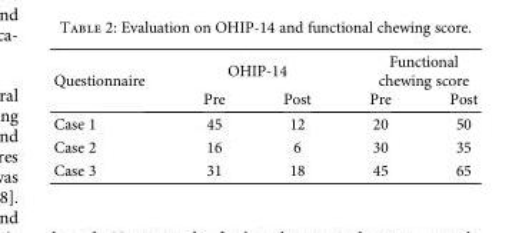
<table><thead><tr><td rowspan="2">Questionnaire</td><td colspan="2">OHIP-14</td><td colspan="2">Functional chewing score</td></tr><tr><td>Pre</td><td>Post</td><td>Pre</td><td>Post</td></tr></thead><tbody><tr><td>Case 1</td><td>45</td><td>12</td><td>20</td><td>50</td></tr><tr><td>Case 2</td><td>16</td><td>6</td><td>30</td><td>35</td></tr><tr><td>Case 3</td><td>31</td><td>18</td><td>45</td><td>65</td></tr></tbody></table>